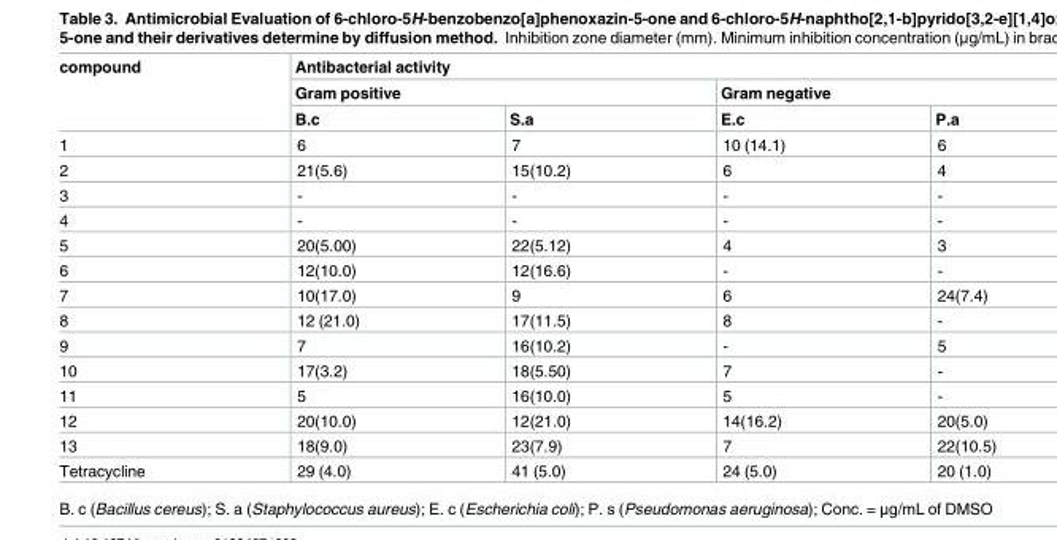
<table><thead><tr><td rowspan="3">compound</td><td colspan="4">Antibacterial activity</td></tr><tr><td colspan="2">Gram positive</td><td colspan="2">Gram negative</td></tr><tr><td>B.c</td><td>S.a</td><td>E.c</td><td>P.a</td></tr></thead><tbody><tr><td>1</td><td>6</td><td>7</td><td>10 (14.1)</td><td>6</td></tr><tr><td>2</td><td>21(5.6)</td><td>15(10.2)</td><td>6</td><td>4</td></tr><tr><td>3</td><td>-</td><td>-</td><td>-</td><td>-</td></tr><tr><td>4</td><td>-</td><td>-</td><td>-</td><td>-</td></tr><tr><td>5</td><td>20(5.00)</td><td>22(5.12)</td><td>4</td><td>3</td></tr><tr><td>6</td><td>12(10.0)</td><td>12(16.6)</td><td>-</td><td>-</td></tr><tr><td>7</td><td>10(17.0)</td><td>9</td><td>6</td><td>24(7.4)</td></tr><tr><td>8</td><td>12 (21.0)</td><td>17(11.5)</td><td>8</td><td>-</td></tr><tr><td>9</td><td>7</td><td>16(10.2)</td><td>-</td><td>5</td></tr><tr><td>10</td><td>17(3.2)</td><td>18(5.50)</td><td>7</td><td>-</td></tr><tr><td>11</td><td>5</td><td>16(10.0)</td><td>5</td><td>-</td></tr><tr><td>12</td><td>20(10.0)</td><td>12(21.0)</td><td>14(16.2)</td><td>20(5.0)</td></tr><tr><td>13</td><td>18(9.0)</td><td>23(7.9)</td><td>7</td><td>22(10.5)</td></tr><tr><td>Tetracycline</td><td>29 (4.0)</td><td>41 (5.0)</td><td>24 (5.0)</td><td>20 (1.0)</td></tr></tbody></table>